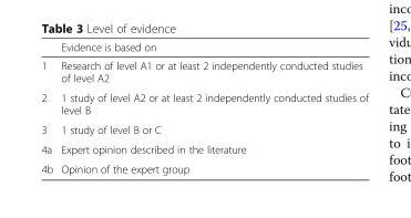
<table><thead><tr><td></td><td>Evidence is based on</td></tr></thead><tbody><tr><td>1</td><td>Research of level A1 or at least 2 independently conducted studies of level A2</td></tr><tr><td>2</td><td>1 study of level A2 or at least 2 independently conducted studies of level B</td></tr><tr><td>3</td><td>1 study of level B or C</td></tr><tr><td>4a</td><td>Expert opinion described in the literature</td></tr><tr><td>4b</td><td>Opinion of the expert group</td></tr></tbody></table>